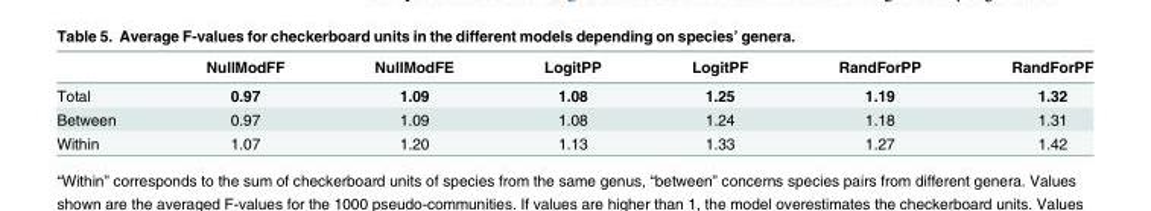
<table><thead><tr><td></td><td>NullModFF</td><td>NullModFE</td><td>LogitPP</td><td>LogitPF</td><td>RandForPP</td><td>RandForPF</td></tr></thead><tbody><tr><td>Total</td><td>0.97</td><td>1.09</td><td>1.08</td><td>1.25</td><td>1.19</td><td>1.32</td></tr><tr><td>Between</td><td>0.97</td><td>1.09</td><td>1.08</td><td>1.24</td><td>1.18</td><td>1.31</td></tr><tr><td>Within</td><td>1.07</td><td>1.20</td><td>1.13</td><td>1.33</td><td>1.27</td><td>1.42</td></tr></tbody></table>